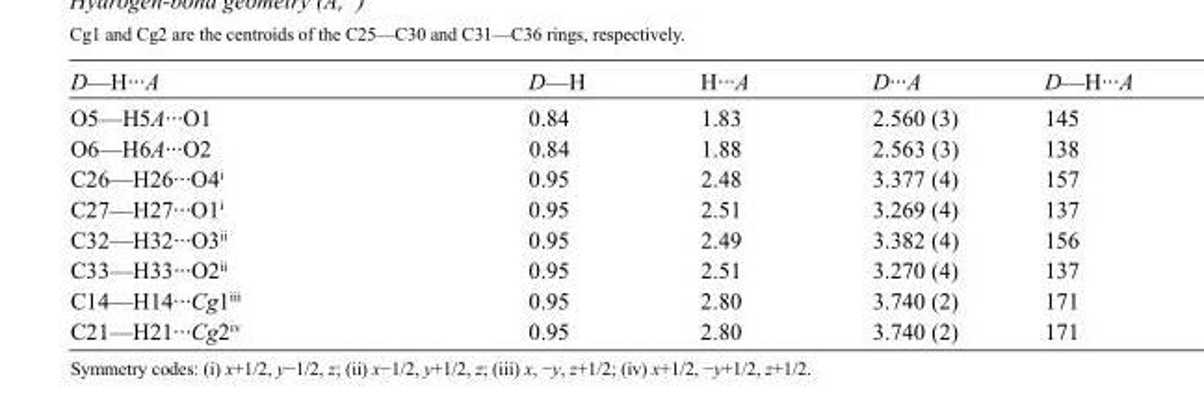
<table><tbody><tr><td>D—H···A</td><td>D—H</td><td>H···A</td><td>D···A</td><td>D—H···A</td></tr><tr><td>O5—H5A···O1</td><td>0.84</td><td>1.83</td><td>2.560 (3)</td><td>145</td></tr><tr><td>O6—H6A···O2</td><td>0.84</td><td>1.88</td><td>2.563 (3)</td><td>138</td></tr><tr><td>C26—H26···O4<sup>i</sup></td><td>0.95</td><td>2.48</td><td>3.377 (4)</td><td>157</td></tr><tr><td>C27—H27···O1<sup>i</sup></td><td>0.95</td><td>2.51</td><td>3.269 (4)</td><td>137</td></tr><tr><td>C32—H32···O3<sup>ii</sup></td><td>0.95</td><td>2.49</td><td>3.382 (4)</td><td>156</td></tr><tr><td>C33—H33···O2<sup>ii</sup></td><td>0.95</td><td>2.51</td><td>3.270 (4)</td><td>137</td></tr><tr><td>C14—H14···Cg1<sup>iii</sup></td><td>0.95</td><td>2.80</td><td>3.740 (2)</td><td>171</td></tr><tr><td>C21—H21···Cg2<sup>iv</sup></td><td>0.95</td><td>2.80</td><td>3.740 (2)</td><td>171</td></tr></tbody></table>